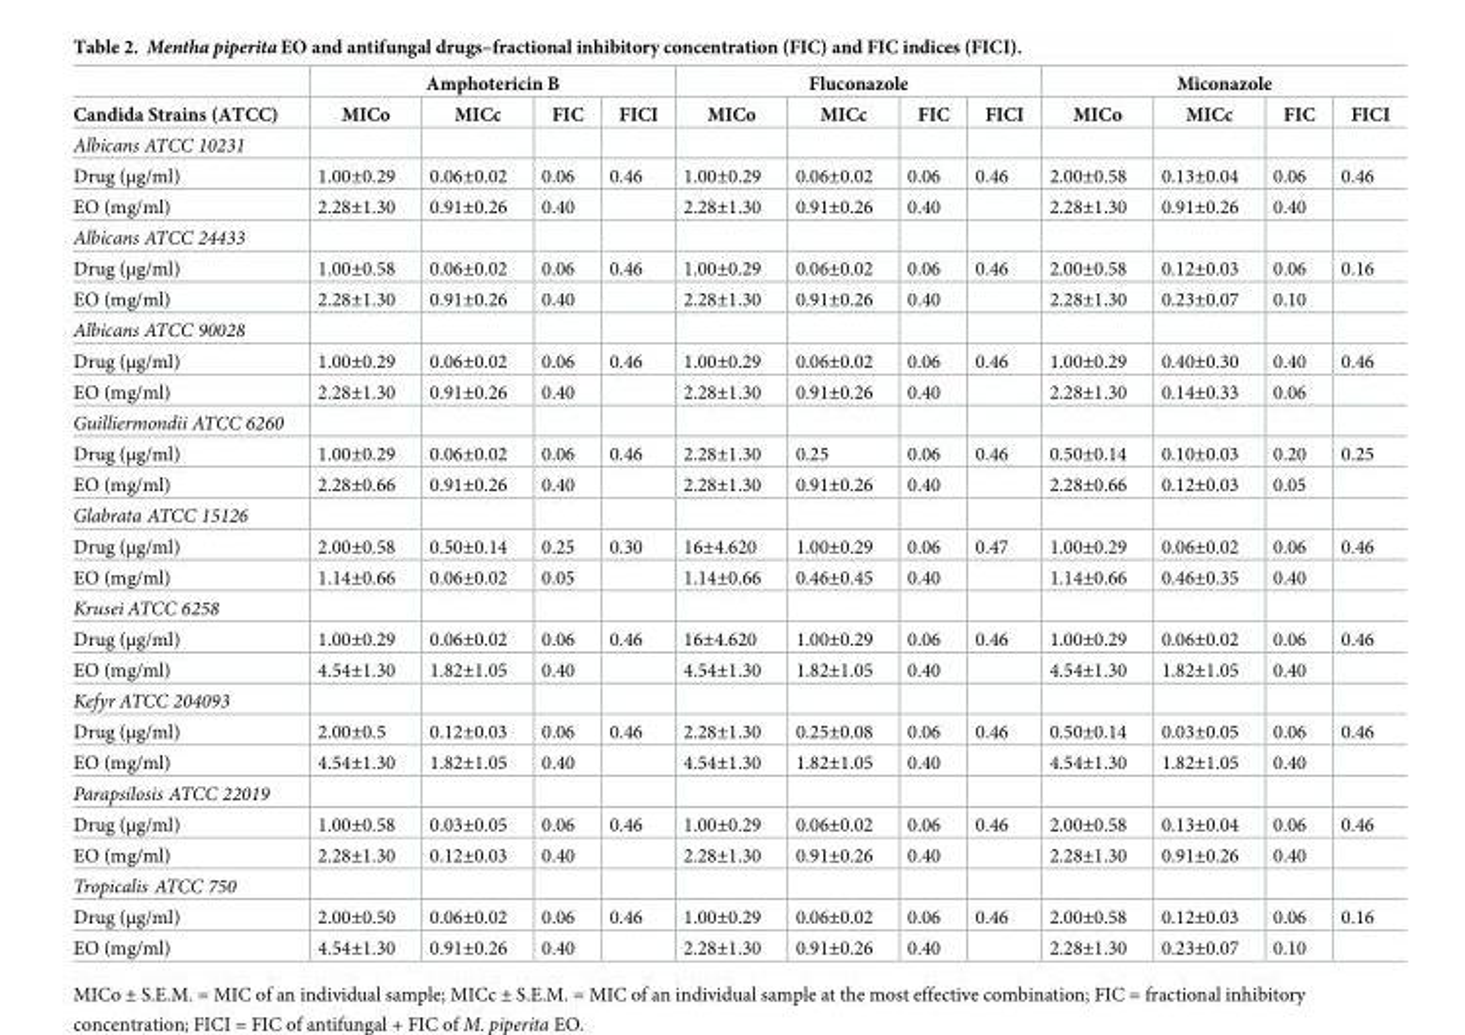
<table><thead><tr><td rowspan="2">Candida Strains (ATCC)</td><td colspan="4">Amphotericin B</td><td colspan="4">Fluconazole</td><td colspan="4">Miconazole</td></tr><tr><td>MICo</td><td>MICc</td><td>FIC</td><td>FICI</td><td>MICo</td><td>MICc</td><td>FIC</td><td>FICI</td><td>MICo</td><td>MICc</td><td>FIC</td><td>FICI</td></tr></thead><tbody><tr><td colspan="13">Albicans ATCC 10231</td></tr><tr><td>Drug (μg/ml)</td><td>1.00±0.29</td><td>0.06±0.02</td><td>0.06</td><td>0.46</td><td>1.00±0.29</td><td>0.06±0.02</td><td>0.06</td><td>0.46</td><td>2.00±0.58</td><td>0.13±0.04</td><td>0.06</td><td>0.46</td></tr><tr><td>EO (mg/ml)</td><td>2.28±1.30</td><td>0.91±0.26</td><td>0.40</td><td></td><td>2.28±1.30</td><td>0.91±0.26</td><td>0.40</td><td></td><td>2.28±1.30</td><td>0.91±0.26</td><td>0.40</td><td></td></tr><tr><td colspan="13">Albicans ATCC 24433</td></tr><tr><td>Drug (μg/ml)</td><td>1.00±0.58</td><td>0.06±0.02</td><td>0.06</td><td>0.46</td><td>1.00±0.29</td><td>0.06±0.02</td><td>0.06</td><td>0.46</td><td>2.00±0.58</td><td>0.12±0.03</td><td>0.06</td><td>0.16</td></tr><tr><td>EO (mg/ml)</td><td>2.28±1.30</td><td>0.91±0.26</td><td>0.40</td><td></td><td>2.28±1.30</td><td>0.91±0.26</td><td>0.40</td><td></td><td>2.28±1.30</td><td>0.23±0.07</td><td>0.10</td><td></td></tr><tr><td colspan="13">Albicans ATCC 90028</td></tr><tr><td>Drug (μg/ml)</td><td>1.00±0.29</td><td>0.06±0.02</td><td>0.06</td><td>0.46</td><td>1.00±0.29</td><td>0.06±0.02</td><td>0.06</td><td>0.46</td><td>1.00±0.29</td><td>0.40±0.30</td><td>0.40</td><td>0.46</td></tr><tr><td>EO (mg/ml)</td><td>2.28±1.30</td><td>0.91±0.26</td><td>0.40</td><td></td><td>2.28±1.30</td><td>0.91±0.26</td><td>0.40</td><td></td><td>2.28±1.30</td><td>0.14±0.33</td><td>0.06</td><td></td></tr><tr><td colspan="13">Guilliermondii ATCC 6260</td></tr><tr><td>Drug (μg/ml)</td><td>1.00±0.29</td><td>0.06±0.02</td><td>0.06</td><td>0.46</td><td>2.28±1.30</td><td>0.25</td><td>0.06</td><td>0.46</td><td>0.50±0.14</td><td>0.10±0.03</td><td>0.20</td><td>0.25</td></tr><tr><td>EO (mg/ml)</td><td>2.28±0.66</td><td>0.91±0.26</td><td>0.40</td><td></td><td>2.28±1.30</td><td>0.91±0.26</td><td>0.40</td><td></td><td>2.28±0.66</td><td>0.12±0.03</td><td>0.05</td><td></td></tr><tr><td colspan="13">Glabrata ATCC 15126</td></tr><tr><td>Drug (μg/ml)</td><td>2.00±0.58</td><td>0.50±0.14</td><td>0.25</td><td>0.30</td><td>16±4.620</td><td>1.00±0.29</td><td>0.06</td><td>0.47</td><td>1.00±0.29</td><td>0.06±0.02</td><td>0.06</td><td>0.46</td></tr><tr><td>EO (mg/ml)</td><td>1.14±0.66</td><td>0.06±0.02</td><td>0.05</td><td></td><td>1.14±0.66</td><td>0.46±0.45</td><td>0.40</td><td></td><td>1.14±0.66</td><td>0.46±0.35</td><td>0.40</td><td></td></tr><tr><td colspan="13">Krusei ATCC 6258</td></tr><tr><td>Drug (μg/ml)</td><td>1.00±0.29</td><td>0.06±0.02</td><td>0.06</td><td>0.46</td><td>16±4.620</td><td>1.00±0.29</td><td>0.06</td><td>0.46</td><td>1.00±0.29</td><td>0.06±0.02</td><td>0.06</td><td>0.46</td></tr><tr><td>EO (mg/ml)</td><td>4.54±1.30</td><td>1.82±1.05</td><td>0.40</td><td></td><td>4.54±1.30</td><td>1.82±1.05</td><td>0.40</td><td></td><td>4.54±1.30</td><td>1.82±1.05</td><td>0.40</td><td></td></tr><tr><td colspan="13">Kefyr ATCC 204093</td></tr><tr><td>Drug (μg/ml)</td><td>2.00±0.5</td><td>0.12±0.03</td><td>0.06</td><td>0.46</td><td>2.28±1.30</td><td>0.25±0.08</td><td>0.06</td><td>0.46</td><td>0.50±0.14</td><td>0.03±0.05</td><td>0.06</td><td>0.46</td></tr><tr><td>EO (mg/ml)</td><td>4.54±1.30</td><td>1.82±1.05</td><td>0.40</td><td></td><td>4.54±1.30</td><td>1.82±1.05</td><td>0.40</td><td></td><td>4.54±1.30</td><td>1.82±1.05</td><td>0.40</td><td></td></tr><tr><td colspan="13">Parapsilosis ATCC 22019</td></tr><tr><td>Drug (μg/ml)</td><td>1.00±0.58</td><td>0.03±0.05</td><td>0.06</td><td>0.46</td><td>1.00±0.29</td><td>0.06±0.02</td><td>0.06</td><td>0.46</td><td>2.00±0.58</td><td>0.13±0.04</td><td>0.06</td><td>0.46</td></tr><tr><td>EO (mg/ml)</td><td>2.28±1.30</td><td>0.12±0.03</td><td>0.40</td><td></td><td>2.28±1.30</td><td>0.91±0.26</td><td>0.40</td><td></td><td>2.28±1.30</td><td>0.91±0.26</td><td>0.40</td><td></td></tr><tr><td colspan="13">Tropicalis ATCC 750</td></tr><tr><td>Drug (μg/ml)</td><td>2.00±0.50</td><td>0.06±0.02</td><td>0.06</td><td>0.46</td><td>1.00±0.29</td><td>0.06±0.02</td><td>0.06</td><td>0.46</td><td>2.00±0.58</td><td>0.12±0.03</td><td>0.06</td><td>0.16</td></tr><tr><td>EO (mg/ml)</td><td>4.54±1.30</td><td>0.91±0.26</td><td>0.40</td><td></td><td>2.28±1.30</td><td>0.91±0.26</td><td>0.40</td><td></td><td>2.28±1.30</td><td>0.23±0.07</td><td>0.10</td><td></td></tr></tbody></table>